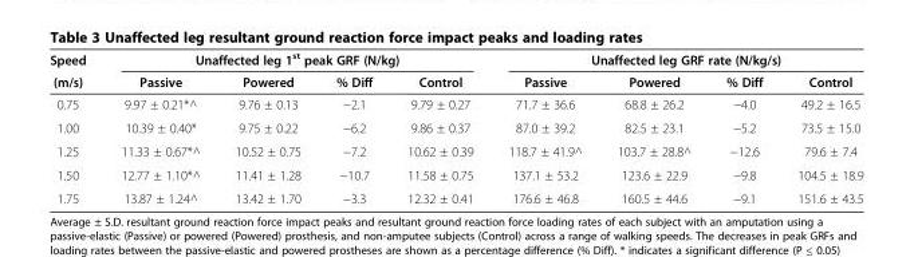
<table><thead><tr><td rowspan="2">Speed (m/s)</td><td colspan="4">Unaffected leg 1<sup>st</sup> peak GRF (N/kg)</td><td colspan="4">Unaffected leg GRF rate (N/kg/s)</td></tr><tr><td>Passive</td><td>Powered</td><td>% Diff</td><td>Control</td><td>Passive</td><td>Powered</td><td>% Diff</td><td>Control</td></tr></thead><tbody><tr><td>0.75</td><td>9.97 ± 0.21*^</td><td>9.76 ± 0.13</td><td>−2.1</td><td>9.79 ± 0.27</td><td>71.7 ± 36.6</td><td>68.8 ± 26.2</td><td>−4.0</td><td>49.2 ± 16.5</td></tr><tr><td>1.00</td><td>10.39 ± 0.40*</td><td>9.75 ± 0.22</td><td>−6.2</td><td>9.86 ± 0.37</td><td>87.0 ± 39.2</td><td>82.5 ± 23.1</td><td>−5.2</td><td>73.5 ± 15.0</td></tr><tr><td>1.25</td><td>11.33 ± 0.67*^</td><td>10.52 ± 0.75</td><td>−7.2</td><td>10.62 ± 0.39</td><td>118.7 ± 41.9^</td><td>103.7 ± 28.8^</td><td>−12.6</td><td>79.6 ± 7.4</td></tr><tr><td>1.50</td><td>12.77 ± 1.10*^</td><td>11.41 ± 1.28</td><td>−10.7</td><td>11.58 ± 0.75</td><td>137.1 ± 53.2</td><td>123.6 ± 22.9</td><td>−9.8</td><td>104.5 ± 18.9</td></tr><tr><td>1.75</td><td>13.87 ± 1.24^</td><td>13.42 ± 1.70</td><td>−3.3</td><td>12.32 ± 0.41</td><td>176.6 ± 46.8</td><td>160.5 ± 44.6</td><td>−9.1</td><td>151.6 ± 43.5</td></tr></tbody></table>